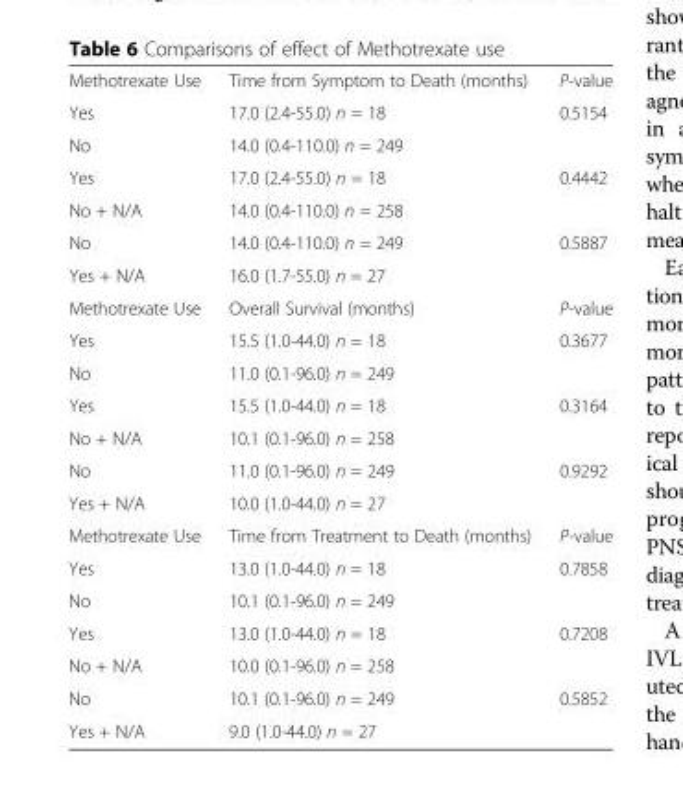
<table><tbody><tr><td>Methotrexate Use</td><td>Time from Symptom to Death (months)</td><td>P-value</td></tr><tr><td>Yes</td><td>17.0 (2.4-55.0) n = 18</td><td rowspan="2">0.5154</td></tr><tr><td>No</td><td>14.0 (0.4-110.0) n = 249</td></tr><tr><td>Yes</td><td>17.0 (2.4-55.0) n = 18</td><td rowspan="2">0.4442</td></tr><tr><td>No + N/A</td><td>14.0 (0.4-110.0) n = 258</td></tr><tr><td>No</td><td>14.0 (0.4-110.0) n = 249</td><td rowspan="2">0.5887</td></tr><tr><td>Yes + N/A</td><td>16.0 (1.7-55.0) n = 27</td></tr><tr><td>Methotrexate Use</td><td>Overall Survival (months)</td><td>P-value</td></tr><tr><td>Yes</td><td>15.5 (1.0-44.0) n = 18</td><td rowspan="2">0.3677</td></tr><tr><td>No</td><td>11.0 (0.1-96.0) n = 249</td></tr><tr><td>Yes</td><td>15.5 (1.0-44.0) n = 18</td><td rowspan="2">0.3164</td></tr><tr><td>No + N/A</td><td>10.1 (0.1-96.0) n = 258</td></tr><tr><td>No</td><td>11.0 (0.1-96.0) n = 249</td><td rowspan="2">0.9292</td></tr><tr><td>Yes + N/A</td><td>10.0 (1.0-44.0) n = 27</td></tr><tr><td>Methotrexate Use</td><td>Time from Treatment to Death (months)</td><td>P-value</td></tr><tr><td>Yes</td><td>13.0 (1.0-44.0) n = 18</td><td rowspan="2">0.7858</td></tr><tr><td>No</td><td>10.1 (0.1-96.0) n = 249</td></tr><tr><td>Yes</td><td>13.0 (1.0-44.0) n = 18</td><td rowspan="2">0.7208</td></tr><tr><td>No + N/A</td><td>10.0 (0.1-96.0) n = 258</td></tr><tr><td>No</td><td>10.1 (0.1-96.0) n = 249</td><td rowspan="2">0.5852</td></tr><tr><td>Yes + N/A</td><td>9.0 (1.0-44.0) n = 27</td></tr></tbody></table>